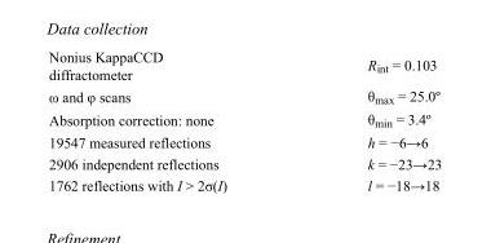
<table><tbody><tr><td>Nonius KappaCCD diffractometer</td><td>R<sub>int</sub> = 0.103</td></tr><tr><td>ω and φ scans</td><td>θ<sub>max</sub> = 25.0º</td></tr><tr><td>Absorption correction: none</td><td>θ<sub>min</sub> = 3.4º</td></tr><tr><td>19547 measured reflections</td><td>h = −6→6</td></tr><tr><td>2906 independent reflections</td><td>k = −23→23</td></tr><tr><td>1762 reflections with I &gt; 2σ(I)</td><td>l = −18→18</td></tr></tbody></table>